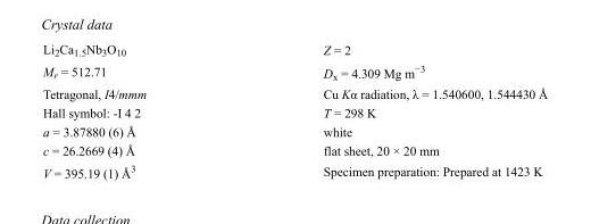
<table><tbody><tr><td>Li<sub>2</sub>Ca<sub>1.5</sub>Nb<sub>3</sub>O<sub>10</sub></td><td>Z = 2</td></tr><tr><td>M<sub>r</sub> = 512.71</td><td>D<sub>x</sub> = 4.309 Mg m<sup>−3</sup></td></tr><tr><td>Tetragonal, I4/mmm</td><td>Cu Kα radiation, λ = 1.540600, 1.544430 Å</td></tr><tr><td>Hall symbol: -I 4 2</td><td>T = 298 K</td></tr><tr><td>a = 3.87880 (6) Å</td><td>white</td></tr><tr><td>c = 26.2669 (4) Å</td><td>flat sheet, 20 × 20 mm</td></tr><tr><td>V = 395.19 (1) Å<sup>3</sup></td><td>Specimen preparation: Prepared at 1423 K</td></tr></tbody></table>